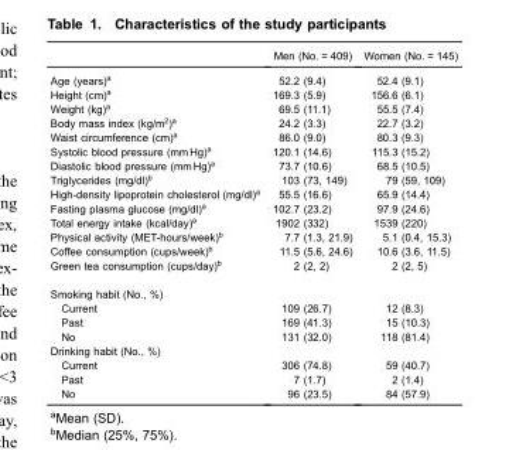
<table><thead><tr><td></td><td>Men (No. = 409)</td><td>Women (No. = 145)</td></tr></thead><tbody><tr><td>Age (years)<sup>a</sup></td><td>52.2 (9.4)</td><td>52.4 (9.1)</td></tr><tr><td>Height (cm)<sup>a</sup></td><td>169.3 (5.9)</td><td>156.6 (6.1)</td></tr><tr><td>Weight (kg)<sup>a</sup></td><td>69.5 (11.1)</td><td>55.5 (7.4)</td></tr><tr><td>Body mass index (kg/m<sup>2</sup>)<sup>a</sup></td><td>24.2 (3.3)</td><td>22.7 (3.2)</td></tr><tr><td>Waist circumference (cm)<sup>a</sup></td><td>86.0 (9.0)</td><td>80.3 (9.3)</td></tr><tr><td>Systolic blood pressure (mm Hg)<sup>a</sup></td><td>120.1 (14.6)</td><td>115.3 (15.2)</td></tr><tr><td>Diastolic blood pressure (mm Hg)<sup>a</sup></td><td>73.7 (10.6)</td><td>68.5 (10.5)</td></tr><tr><td>Triglycerides (mg/dl)<sup>b</sup></td><td>103 (73, 149)</td><td>79 (59, 109)</td></tr><tr><td>High-density lipoprotein cholesterol (mg/dl)<sup>a</sup></td><td>55.5 (16.6)</td><td>65.9 (14.4)</td></tr><tr><td>Fasting plasma glucose (mg/dl)<sup>a</sup></td><td>102.7 (23.2)</td><td>97.9 (24.6)</td></tr><tr><td>Total energy intake (kcal/day)<sup>a</sup></td><td>1902 (332)</td><td>1539 (220)</td></tr><tr><td>Physical activity (MET-hours/week)<sup>b</sup></td><td>7.7 (1.3, 21.9)</td><td>5.1 (0.4, 15.3)</td></tr><tr><td>Coffee consumption (cups/week)<sup>b</sup></td><td>11.5 (5.6, 24.6)</td><td>10.6 (3.6, 11.5)</td></tr><tr><td>Green tea consumption (cups/day)<sup>b</sup></td><td>2 (2, 2)</td><td>2 (2, 5)</td></tr><tr><td colspan="3">Smoking habit (No., %)</td></tr><tr><td>Current</td><td>109 (26.7)</td><td>12 (8.3)</td></tr><tr><td>Past</td><td>169 (41.3)</td><td>15 (10.3)</td></tr><tr><td>No</td><td>131 (32.0)</td><td>118 (81.4)</td></tr><tr><td colspan="3">Drinking habit (No., %)</td></tr><tr><td>Current</td><td>306 (74.8)</td><td>59 (40.7)</td></tr><tr><td>Past</td><td>7 (1.7)</td><td>2 (1.4)</td></tr><tr><td>No</td><td>96 (23.5)</td><td>84 (57.9)</td></tr></tbody></table>